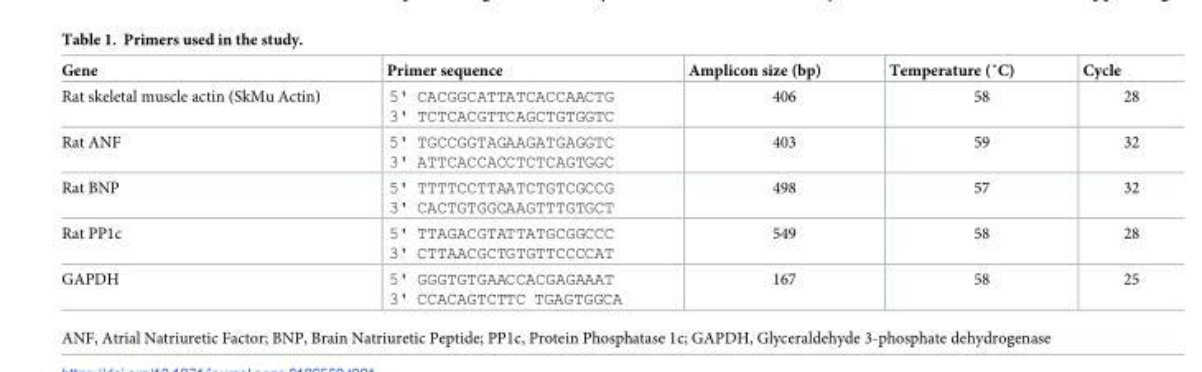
<table><thead><tr><td>Gene</td><td>Primer sequence</td><td>Amplicon size (bp)</td><td>Temperature (˚C)</td><td>Cycle</td></tr></thead><tbody><tr><td>Rat skeletal muscle actin (SkMu Actin)</td><td>5&#x27; CACGGCATTATCACCAACTG 3&#x27; TCTCACGTTCAGCTGTGGTC</td><td>406</td><td>58</td><td>28</td></tr><tr><td>Rat ANF</td><td>5&#x27; TGCCGGTAGAAGATGAGGTC 3&#x27; ATTCACCACCTCTCAGTGGC</td><td>403</td><td>59</td><td>32</td></tr><tr><td>Rat BNP</td><td>5&#x27; TTTTCCTTAATCTGTCGCCG 3&#x27; CACTGTGGCAAGTTTGTGCT</td><td>498</td><td>57</td><td>32</td></tr><tr><td>Rat PP1c</td><td>5&#x27; TTAGACGTATTATGCGGCCC 3&#x27; CTTAACGCTGTGTTCCCCAT</td><td>549</td><td>58</td><td>28</td></tr><tr><td>GAPDH</td><td>5&#x27; GGGTGTGAACCACGAGAAAT 3&#x27; CCACAGTCTTC TGAGTGGCA</td><td>167</td><td>58</td><td>25</td></tr></tbody></table>